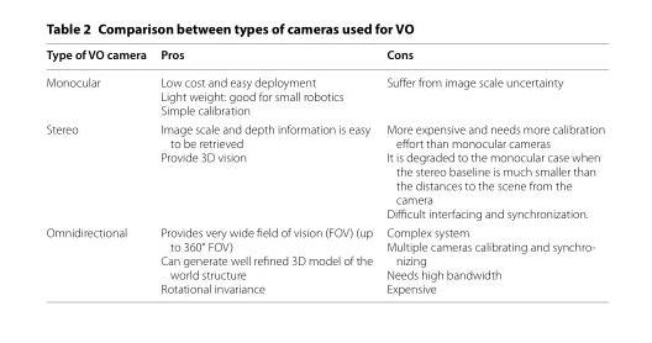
<table><thead><tr><td>Type of VO camera</td><td>Pros</td><td>Cons</td></tr></thead><tbody><tr><td>Monocular</td><td>Low cost and easy deployment Light weight: good for small robotics Simple calibration</td><td>Suffer from image scale uncertainty</td></tr><tr><td>Stereo</td><td>Image scale and depth information is easy to be retrieved Provide 3D vision</td><td>More expensive and needs more calibration effort than monocular cameras It is degraded to the monocular case when the stereo baseline is much smaller than the distances to the scene from the camera Difficult interfacing and synchronization.</td></tr><tr><td>Omnidirectional</td><td>Provides very wide field of vision (FOV) (up to 360° FOV) Can generate well refined 3D model of the world structure Rotational invariance</td><td>Complex system Multiple cameras calibrating and synchro- nizing Needs high bandwidth Expensive</td></tr></tbody></table>